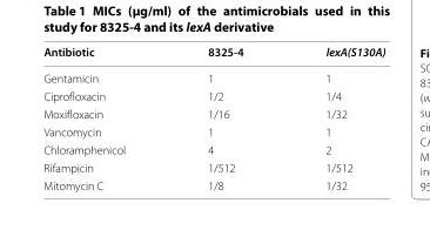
<table><thead><tr><td>Antibiotic</td><td>8325-4</td><td>lexA(S130A)</td></tr></thead><tbody><tr><td>Gentamicin</td><td>1</td><td>1</td></tr><tr><td>Ciprofloxacin</td><td>1/2</td><td>1/4</td></tr><tr><td>Moxifloxacin</td><td>1/16</td><td>1/32</td></tr><tr><td>Vancomycin</td><td>1</td><td>1</td></tr><tr><td>Chloramphenicol</td><td>4</td><td>2</td></tr><tr><td>Rifampicin</td><td>1/512</td><td>1/512</td></tr><tr><td>Mitomycin C</td><td>1/8</td><td>1/32</td></tr></tbody></table>